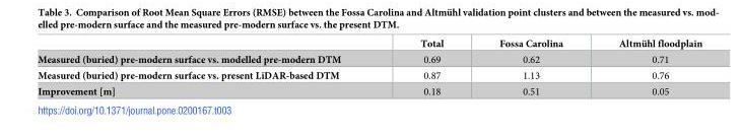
<table><thead><tr><td></td><td>Total</td><td>Fossa Carolina</td><td>Altmu¨hl floodplain</td></tr></thead><tbody><tr><td>Measured (buried) pre-modern surface vs. modelled pre-modern DTM</td><td>0.69</td><td>0.62</td><td>0.71</td></tr><tr><td>Measured (buried) pre-modern surface vs. present LiDAR-based DTM</td><td>0.87</td><td>1.13</td><td>0.76</td></tr><tr><td>Improvement [m]</td><td>0.18</td><td>0.51</td><td>0.05</td></tr></tbody></table>